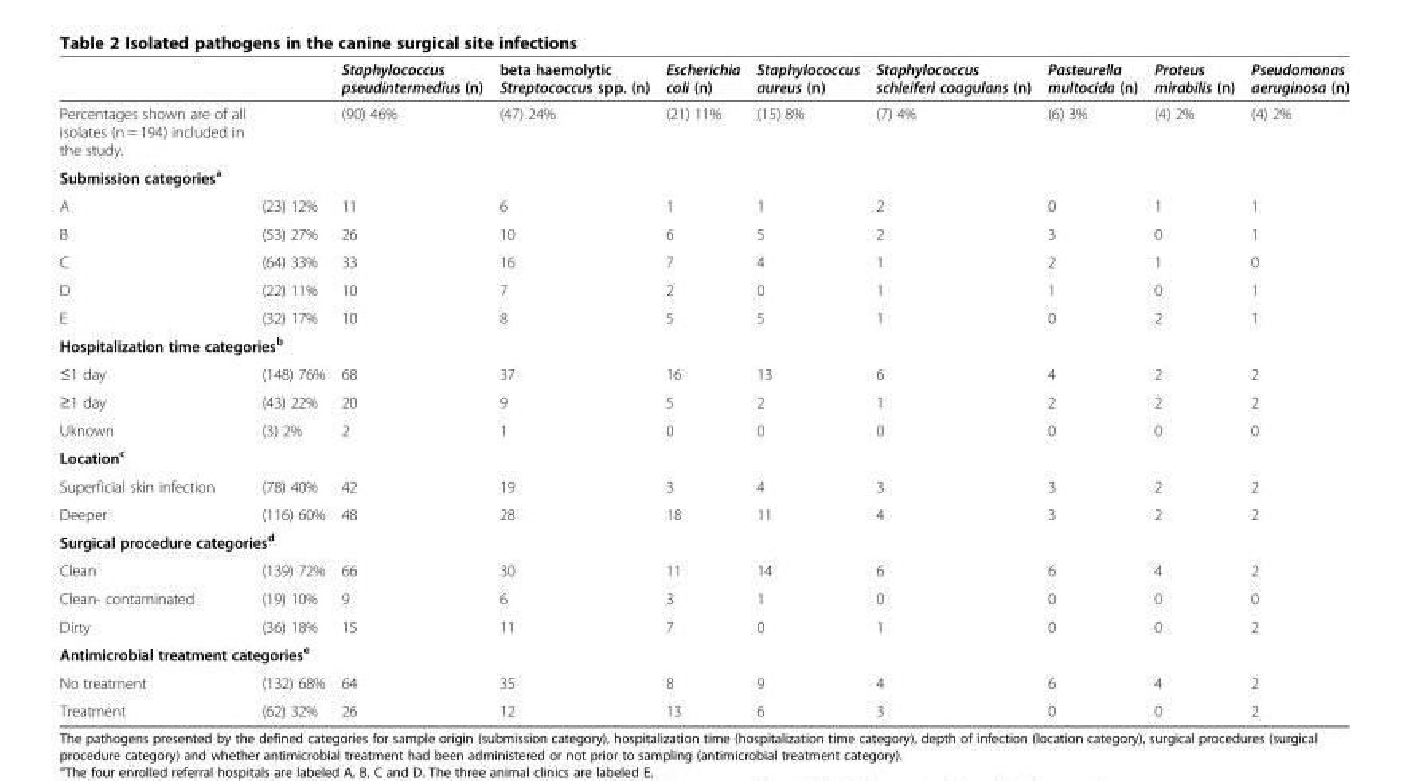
<table><thead><tr><td></td><td></td><td>Staphylococcus pseudintermedius (n)</td><td>beta haemolytic Streptococcus spp. (n)</td><td>Escherichia coli (n)</td><td>Staphylococcus aureus (n)</td><td>Staphylococcus schleiferi coagulans (n)</td><td>Pasteurella multocida (n)</td><td>Proteus mirabilis (n)</td><td>Pseudomonas aeruginosa (n)</td></tr></thead><tbody><tr><td>Percentages shown are of all isolates (n = 194) included in the study.</td><td></td><td>(90) 46%</td><td>(47) 24%</td><td>(21) 11%</td><td>(15) 8%</td><td>(7) 4%</td><td>(6) 3%</td><td>(4) 2%</td><td>(4) 2%</td></tr><tr><td colspan="10">Submission categories<sup>a</sup></td></tr><tr><td>A</td><td>(23) 12%</td><td>11</td><td>6</td><td>1</td><td>1</td><td>2</td><td>0</td><td>1</td><td>1</td></tr><tr><td>B</td><td>(53) 27%</td><td>26</td><td>10</td><td>6</td><td>5</td><td>2</td><td>3</td><td>0</td><td>1</td></tr><tr><td>C</td><td>(64) 33%</td><td>33</td><td>16</td><td>7</td><td>4</td><td>1</td><td>2</td><td>1</td><td>0</td></tr><tr><td>D</td><td>(22) 11%</td><td>10</td><td>7</td><td>2</td><td>0</td><td>1</td><td>1</td><td>0</td><td>1</td></tr><tr><td>E</td><td>(32) 17%</td><td>10</td><td>8</td><td>5</td><td>5</td><td>1</td><td>0</td><td>2</td><td>1</td></tr><tr><td colspan="10">Hospitalization time categories<sup>b</sup></td></tr><tr><td>≤1 day</td><td>(148) 76%</td><td>68</td><td>37</td><td>16</td><td>13</td><td>6</td><td>4</td><td>2</td><td>2</td></tr><tr><td>≥1 day</td><td>(43) 22%</td><td>20</td><td>9</td><td>5</td><td>2</td><td>1</td><td>2</td><td>2</td><td>2</td></tr><tr><td>Uknown</td><td>(3) 2%</td><td>2</td><td>1</td><td>0</td><td>0</td><td>0</td><td>0</td><td>0</td><td>0</td></tr><tr><td colspan="10">Location<sup>c</sup></td></tr><tr><td>Superficial skin infection</td><td>(78) 40%</td><td>42</td><td>19</td><td>3</td><td>4</td><td>3</td><td>3</td><td>2</td><td>2</td></tr><tr><td>Deeper</td><td>(116) 60%</td><td>48</td><td>28</td><td>18</td><td>11</td><td>4</td><td>3</td><td>2</td><td>2</td></tr><tr><td colspan="10">Surgical procedure categories<sup>d</sup></td></tr><tr><td>Clean</td><td>(139) 72%</td><td>66</td><td>30</td><td>11</td><td>14</td><td>6</td><td>6</td><td>4</td><td>2</td></tr><tr><td>Clean- contaminated</td><td>(19) 10%</td><td>9</td><td>6</td><td>3</td><td>1</td><td>0</td><td>0</td><td>0</td><td>0</td></tr><tr><td>Dirty</td><td>(36) 18%</td><td>15</td><td>11</td><td>7</td><td>0</td><td>1</td><td>0</td><td>0</td><td>2</td></tr><tr><td colspan="10">Antimicrobial treatment categories<sup>e</sup></td></tr><tr><td>No treatment</td><td>(132) 68%</td><td>64</td><td>35</td><td>8</td><td>9</td><td>4</td><td>6</td><td>4</td><td>2</td></tr><tr><td>Treatment</td><td>(62) 32%</td><td>26</td><td>12</td><td>13</td><td>6</td><td>3</td><td>0</td><td>0</td><td>2</td></tr></tbody></table>